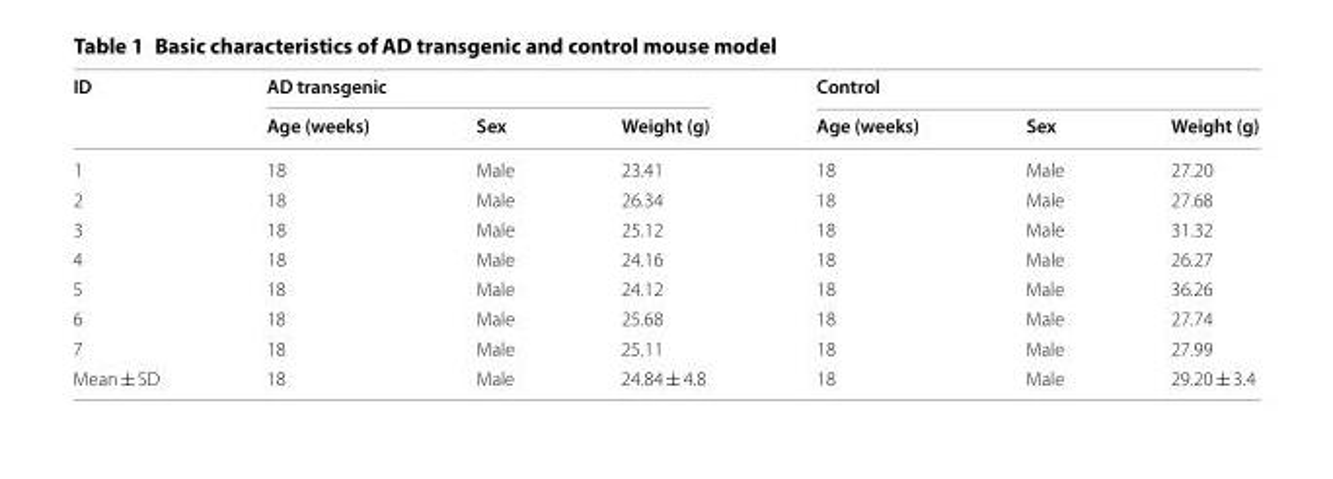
<table><thead><tr><td rowspan="2">ID</td><td colspan="3">AD transgenic</td><td colspan="3">Control</td></tr><tr><td>Age (weeks)</td><td>Sex</td><td>Weight (g)</td><td>Age (weeks)</td><td>Sex</td><td>Weight (g)</td></tr></thead><tbody><tr><td>1</td><td>18</td><td>Male</td><td>23.41</td><td>18</td><td>Male</td><td>27.20</td></tr><tr><td>2</td><td>18</td><td>Male</td><td>26.34</td><td>18</td><td>Male</td><td>27.68</td></tr><tr><td>3</td><td>18</td><td>Male</td><td>25.12</td><td>18</td><td>Male</td><td>31.32</td></tr><tr><td>4</td><td>18</td><td>Male</td><td>24.16</td><td>18</td><td>Male</td><td>26.27</td></tr><tr><td>5</td><td>18</td><td>Male</td><td>24.12</td><td>18</td><td>Male</td><td>36.26</td></tr><tr><td>6</td><td>18</td><td>Male</td><td>25.68</td><td>18</td><td>Male</td><td>27.74</td></tr><tr><td>7</td><td>18</td><td>Male</td><td>25.11</td><td>18</td><td>Male</td><td>27.99</td></tr><tr><td>Mean ± SD</td><td>18</td><td>Male</td><td>24.84 ± 4.8</td><td>18</td><td>Male</td><td>29.20 ± 3.4</td></tr></tbody></table>